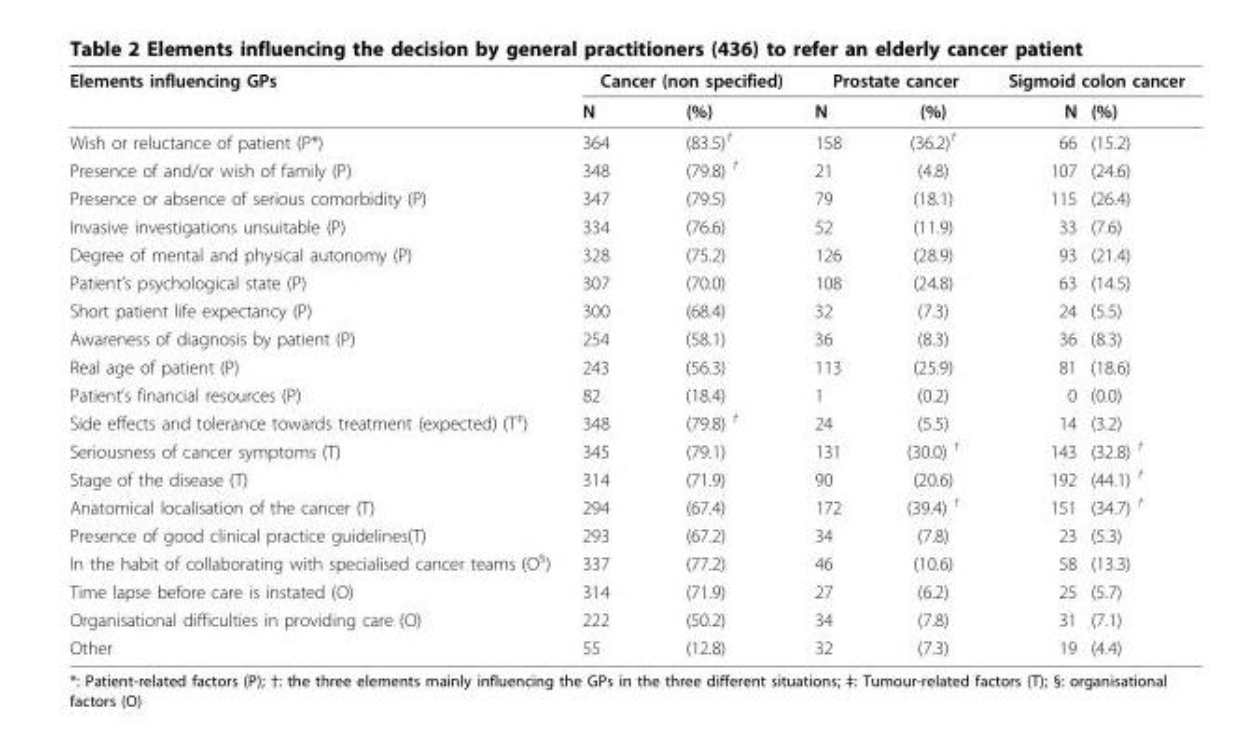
<table><thead><tr><td rowspan="2">Elements influencing GPs</td><td colspan="2">Cancer (non specified)</td><td colspan="2">Prostate cancer</td><td colspan="2">Sigmoid colon cancer</td></tr><tr><td>N</td><td>(%)</td><td>N</td><td>(%)</td><td>N</td><td>(%)</td></tr></thead><tbody><tr><td>Wish or reluctance of patient (P*)</td><td>364</td><td>(83.5)<sup>†</sup></td><td>158</td><td>(36.2)<sup>†</sup></td><td>66</td><td>(15.2)</td></tr><tr><td>Presence of and/or wish of family (P)</td><td>348</td><td>(79.8) <sup>†</sup></td><td>21</td><td>(4.8)</td><td>107</td><td>(24.6)</td></tr><tr><td>Presence or absence of serious comorbidity (P)</td><td>347</td><td>(79.5)</td><td>79</td><td>(18.1)</td><td>115</td><td>(26.4)</td></tr><tr><td>Invasive investigations unsuitable (P)</td><td>334</td><td>(76.6)</td><td>52</td><td>(11.9)</td><td>33</td><td>(7.6)</td></tr><tr><td>Degree of mental and physical autonomy (P)</td><td>328</td><td>(75.2)</td><td>126</td><td>(28.9)</td><td>93</td><td>(21.4)</td></tr><tr><td>Patient’s psychological state (P)</td><td>307</td><td>(70.0)</td><td>108</td><td>(24.8)</td><td>63</td><td>(14.5)</td></tr><tr><td>Short patient life expectancy (P)</td><td>300</td><td>(68.4)</td><td>32</td><td>(7.3)</td><td>24</td><td>(5.5)</td></tr><tr><td>Awareness of diagnosis by patient (P)</td><td>254</td><td>(58.1)</td><td>36</td><td>(8.3)</td><td>36</td><td>(8.3)</td></tr><tr><td>Real age of patient (P)</td><td>243</td><td>(56.3)</td><td>113</td><td>(25.9)</td><td>81</td><td>(18.6)</td></tr><tr><td>Patient’s financial resources (P)</td><td>82</td><td>(18.4)</td><td>1</td><td>(0.2)</td><td>0</td><td>(0.0)</td></tr><tr><td>Side effects and tolerance towards treatment (expected) (T<sup>‡</sup>)</td><td>348</td><td>(79.8) <sup>†</sup></td><td>24</td><td>(5.5)</td><td>14</td><td>(3.2)</td></tr><tr><td>Seriousness of cancer symptoms (T)</td><td>345</td><td>(79.1)</td><td>131</td><td>(30.0) <sup>†</sup></td><td>143</td><td>(32.8) <sup>†</sup></td></tr><tr><td>Stage of the disease (T)</td><td>314</td><td>(71.9)</td><td>90</td><td>(20.6)</td><td>192</td><td>(44.1) <sup>†</sup></td></tr><tr><td>Anatomical localisation of the cancer (T)</td><td>294</td><td>(67.4)</td><td>172</td><td>(39.4) <sup>†</sup></td><td>151</td><td>(34.7) <sup>†</sup></td></tr><tr><td>Presence of good clinical practice guidelines(T)</td><td>293</td><td>(67.2)</td><td>34</td><td>(7.8)</td><td>23</td><td>(5.3)</td></tr><tr><td>In the habit of collaborating with specialised cancer teams (O<sup>§</sup>)</td><td>337</td><td>(77.2)</td><td>46</td><td>(10.6)</td><td>58</td><td>(13.3)</td></tr><tr><td>Time lapse before care is instated (O)</td><td>314</td><td>(71.9)</td><td>27</td><td>(6.2)</td><td>25</td><td>(5.7)</td></tr><tr><td>Organisational difficulties in providing care (O)</td><td>222</td><td>(50.2)</td><td>34</td><td>(7.8)</td><td>31</td><td>(7.1)</td></tr><tr><td>Other</td><td>55</td><td>(12.8)</td><td>32</td><td>(7.3)</td><td>19</td><td>(4.4)</td></tr></tbody></table>